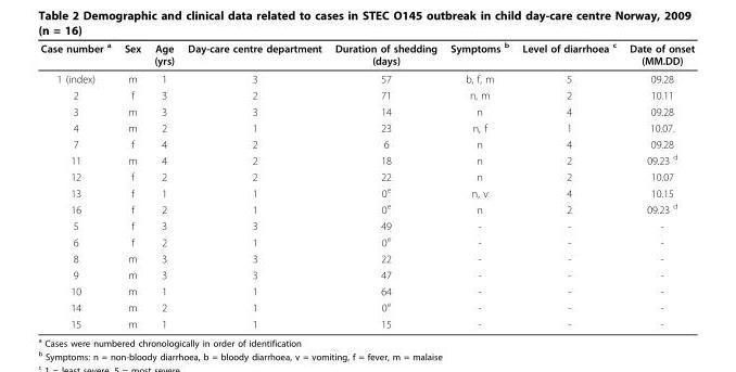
<table><thead><tr><td>Case number <sup>a</sup></td><td>Sex</td><td>Age (yrs)</td><td>Day-care centre department</td><td>Duration of shedding (days)</td><td>Symptoms <sup>b</sup></td><td>Level of diarrhoea <sup>c</sup></td><td>Date of onset (MM.DD)</td></tr></thead><tbody><tr><td>1 (index)</td><td>m</td><td>1</td><td>3</td><td>57</td><td>b, f, m</td><td>5</td><td>09.28</td></tr><tr><td>2</td><td>f</td><td>3</td><td>2</td><td>71</td><td>n, m</td><td>2</td><td>10.11</td></tr><tr><td>3</td><td>m</td><td>3</td><td>3</td><td>14</td><td>n</td><td>4</td><td>09.28</td></tr><tr><td>4</td><td>m</td><td>2</td><td>1</td><td>23</td><td>n, f</td><td>1</td><td>10.07.</td></tr><tr><td>7</td><td>f</td><td>4</td><td>2</td><td>6</td><td>n</td><td>4</td><td>09.28</td></tr><tr><td>11</td><td>m</td><td>4</td><td>2</td><td>18</td><td>n</td><td>2</td><td>09.23 <sup>d</sup></td></tr><tr><td>12</td><td>f</td><td>2</td><td>2</td><td>22</td><td>n</td><td>2</td><td>10.07</td></tr><tr><td>13</td><td>f</td><td>1</td><td>1</td><td>0<sup>e</sup></td><td>n, v</td><td>4</td><td>10.15</td></tr><tr><td>16</td><td>f</td><td>2</td><td>1</td><td>0<sup>e</sup></td><td>n</td><td>2</td><td>09.23 <sup>d</sup></td></tr><tr><td>5</td><td>f</td><td>3</td><td>3</td><td>49</td><td>-</td><td>-</td><td>-</td></tr><tr><td>6</td><td>f</td><td>2</td><td>1</td><td>0<sup>e</sup></td><td>-</td><td>-</td><td>-</td></tr><tr><td>8</td><td>m</td><td>3</td><td>3</td><td>22</td><td>-</td><td>-</td><td>-</td></tr><tr><td>9</td><td>m</td><td>3</td><td>3</td><td>47</td><td>-</td><td>-</td><td>-</td></tr><tr><td>10</td><td>m</td><td>1</td><td>1</td><td>64</td><td>-</td><td>-</td><td>-</td></tr><tr><td>14</td><td>m</td><td>2</td><td>1</td><td>0<sup>e</sup></td><td>-</td><td>-</td><td>-</td></tr><tr><td>15</td><td>m</td><td>1</td><td>1</td><td>15</td><td>-</td><td>-</td><td>-</td></tr></tbody></table>